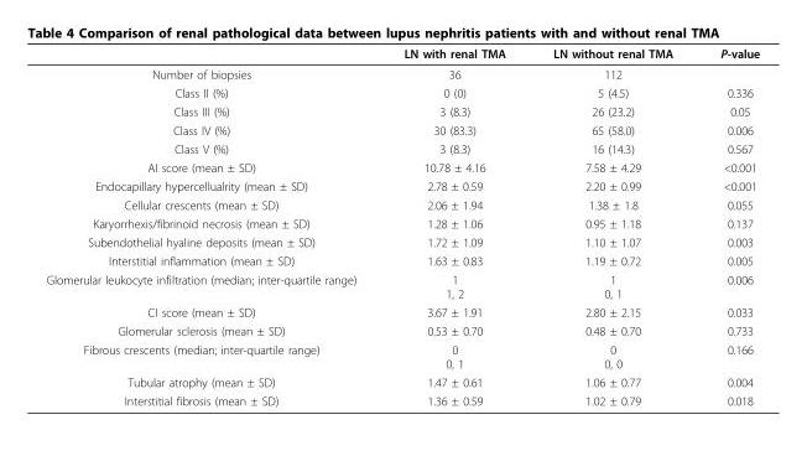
<table><thead><tr><td></td><td>LN with renal TMA</td><td>LN without renal TMA</td><td>P-value</td></tr></thead><tbody><tr><td>Number of biopsies</td><td>36</td><td>112</td><td></td></tr><tr><td>Class II (%)</td><td>0 (0)</td><td>5 (4.5)</td><td>0.336</td></tr><tr><td>Class III (%)</td><td>3 (8.3)</td><td>26 (23.2)</td><td>0.05</td></tr><tr><td>Class IV (%)</td><td>30 (83.3)</td><td>65 (58.0)</td><td>0.006</td></tr><tr><td>Class V (%)</td><td>3 (8.3)</td><td>16 (14.3)</td><td>0.567</td></tr><tr><td>AI score (mean ± SD)</td><td>10.78 ± 4.16</td><td>7.58 ± 4.29</td><td>&lt;0.001</td></tr><tr><td>Endocapillary hypercellualrity (mean ± SD)</td><td>2.78 ± 0.59</td><td>2.20 ± 0.99</td><td>&lt;0.001</td></tr><tr><td>Cellular crescents (mean ± SD)</td><td>2.06 ± 1.94</td><td>1.38 ± 1.8</td><td>0.055</td></tr><tr><td>Karyorrhexis/fibrinoid necrosis (mean ± SD)</td><td>1.28 ± 1.06</td><td>0.95 ± 1.18</td><td>0.137</td></tr><tr><td>Subendothelial hyaline deposits (mean ± SD)</td><td>1.72 ± 1.09</td><td>1.10 ± 1.07</td><td>0.003</td></tr><tr><td>Interstitial inflammation (mean ± SD)</td><td>1.63 ± 0.83</td><td>1.19 ± 0.72</td><td>0.005</td></tr><tr><td>Glomerular leukocyte infiltration (median; inter-quartile range)</td><td>1 1, 2</td><td>1 0, 1</td><td>0.006</td></tr><tr><td>CI score (mean ± SD)</td><td>3.67 ± 1.91</td><td>2.80 ± 2.15</td><td>0.033</td></tr><tr><td>Glomerular sclerosis (mean ± SD)</td><td>0.53 ± 0.70</td><td>0.48 ± 0.70</td><td>0.733</td></tr><tr><td>Fibrous crescents (median; inter-quartile range)</td><td>0 0, 1</td><td>0 0, 0</td><td>0.166</td></tr><tr><td>Tubular atrophy (mean ± SD)</td><td>1.47 ± 0.61</td><td>1.06 ± 0.77</td><td>0.004</td></tr><tr><td>Interstitial fibrosis (mean ± SD)</td><td>1.36 ± 0.59</td><td>1.02 ± 0.79</td><td>0.018</td></tr></tbody></table>